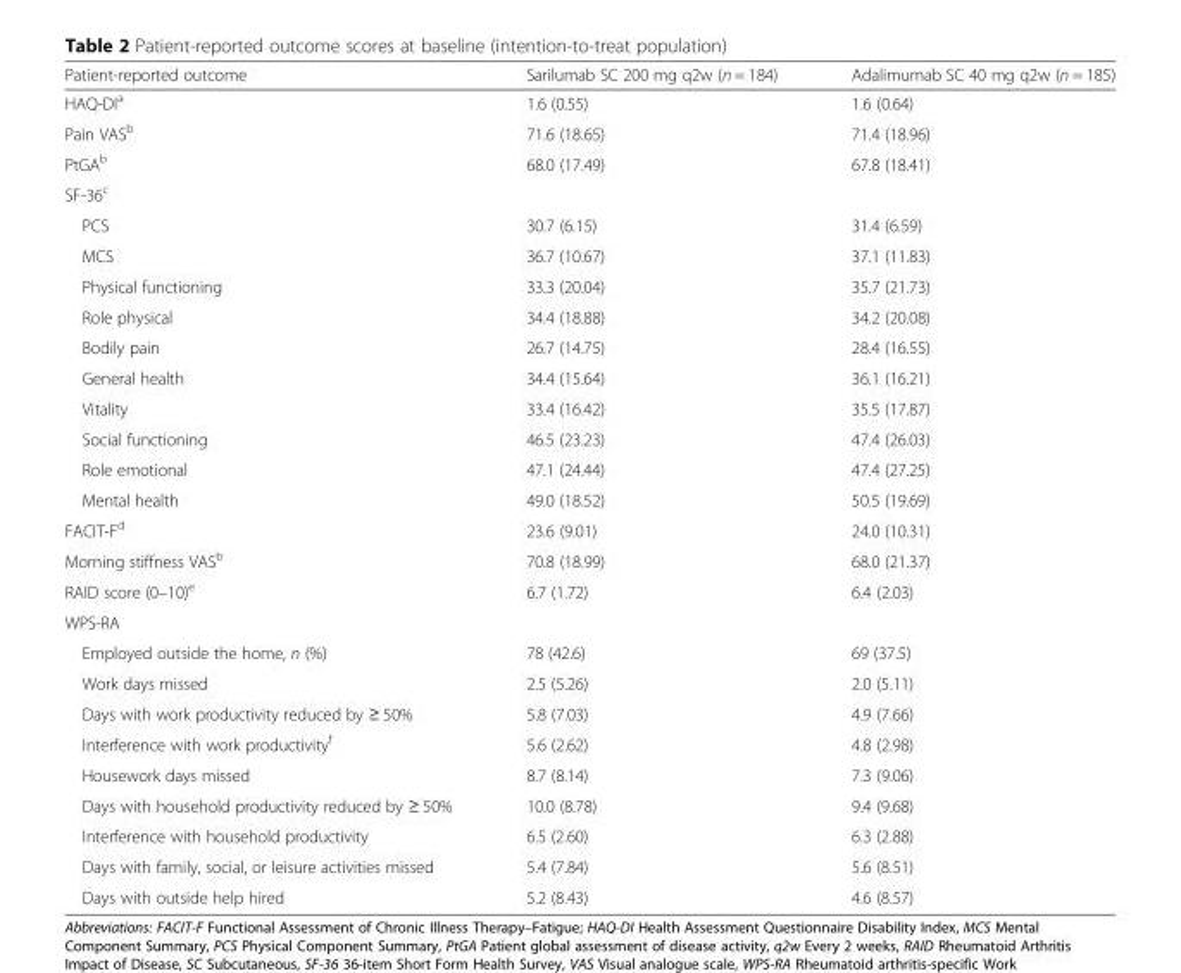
<table><thead><tr><td>Patient-reported outcome</td><td>Sarilumab SC 200 mg q2w (n = 184)</td><td>Adalimumab SC 40 mg q2w (n = 185)</td></tr></thead><tbody><tr><td>HAQ-DI<sup>a</sup></td><td>1.6 (0.55)</td><td>1.6 (0.64)</td></tr><tr><td>Pain VAS<sup>b</sup></td><td>71.6 (18.65)</td><td>71.4 (18.96)</td></tr><tr><td>PtGA<sup>b</sup></td><td>68.0 (17.49)</td><td>67.8 (18.41)</td></tr><tr><td colspan="3">SF-36<sup>c</sup></td></tr><tr><td>PCS</td><td>30.7 (6.15)</td><td>31.4 (6.59)</td></tr><tr><td>MCS</td><td>36.7 (10.67)</td><td>37.1 (11.83)</td></tr><tr><td>Physical functioning</td><td>33.3 (20.04)</td><td>35.7 (21.73)</td></tr><tr><td>Role physical</td><td>34.4 (18.88)</td><td>34.2 (20.08)</td></tr><tr><td>Bodily pain</td><td>26.7 (14.75)</td><td>28.4 (16.55)</td></tr><tr><td>General health</td><td>34.4 (15.64)</td><td>36.1 (16.21)</td></tr><tr><td>Vitality</td><td>33.4 (16.42)</td><td>35.5 (17.87)</td></tr><tr><td>Social functioning</td><td>46.5 (23.23)</td><td>47.4 (26.03)</td></tr><tr><td>Role emotional</td><td>47.1 (24.44)</td><td>47.4 (27.25)</td></tr><tr><td>Mental health</td><td>49.0 (18.52)</td><td>50.5 (19.69)</td></tr><tr><td>FACIT-F<sup>d</sup></td><td>23.6 (9.01)</td><td>24.0 (10.31)</td></tr><tr><td>Morning stiffness VAS<sup>b</sup></td><td>70.8 (18.99)</td><td>68.0 (21.37)</td></tr><tr><td>RAID score (0–10)<sup>e</sup></td><td>6.7 (1.72)</td><td>6.4 (2.03)</td></tr><tr><td colspan="3">WPS-RA</td></tr><tr><td>Employed outside the home, n (%)</td><td>78 (42.6)</td><td>69 (37.5)</td></tr><tr><td>Work days missed</td><td>2.5 (5.26)</td><td>2.0 (5.11)</td></tr><tr><td>Days with work productivity reduced by ≥ 50%</td><td>5.8 (7.03)</td><td>4.9 (7.66)</td></tr><tr><td>Interference with work productivity<sup>f</sup></td><td>5.6 (2.62)</td><td>4.8 (2.98)</td></tr><tr><td>Housework days missed</td><td>8.7 (8.14)</td><td>7.3 (9.06)</td></tr><tr><td>Days with household productivity reduced by ≥ 50%</td><td>10.0 (8.78)</td><td>9.4 (9.68)</td></tr><tr><td>Interference with household productivity</td><td>6.5 (2.60)</td><td>6.3 (2.88)</td></tr><tr><td>Days with family, social, or leisure activities missed</td><td>5.4 (7.84)</td><td>5.6 (8.51)</td></tr><tr><td>Days with outside help hired</td><td>5.2 (8.43)</td><td>4.6 (8.57)</td></tr></tbody></table>